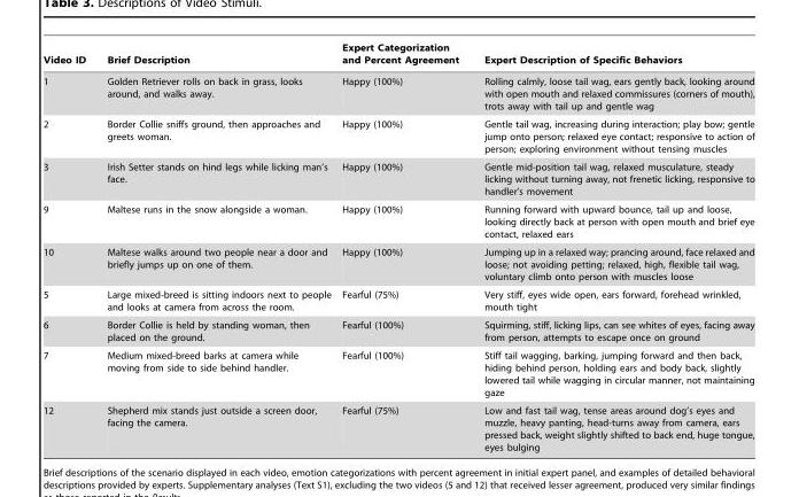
<table><thead><tr><td>Video ID</td><td>Brief Description</td><td>Expert Categorization and Percent Agreement</td><td>Expert Description of Specific Behaviors</td></tr></thead><tbody><tr><td>1</td><td>Golden Retriever rolls on back in grass, looks around, and walks away.</td><td>Happy (100%)</td><td>Rolling calmly, loose tail wag, ears gently back, looking around with open mouth and relaxed commissures (corners of mouth), trots away with tail up and gentle wag</td></tr><tr><td>2</td><td>Border Collie sniffs ground, then approaches and greets woman.</td><td>Happy (100%)</td><td>Gentle tail wag, increasing during interaction; play bow; gentle jump onto person; relaxed eye contact; responsive to action of person; exploring environment without tensing muscles</td></tr><tr><td>3</td><td>Irish Setter stands on hind legs while licking man’s face.</td><td>Happy (100%)</td><td>Gentle mid-position tail wag, relaxed musculature, steady licking without turning away, not frenetic licking, responsive to handler’s movement</td></tr><tr><td>9</td><td>Maltese runs in the snow alongside a woman.</td><td>Happy (100%)</td><td>Running forward with upward bounce, tail up and loose, looking directly back at person with open mouth and brief eye contact, relaxed ears</td></tr><tr><td>10</td><td>Maltese walks around two people near a door and briefly jumps up on one of them.</td><td>Happy (100%)</td><td>Jumping up in a relaxed way; prancing around, face relaxed and loose; not avoiding petting; relaxed, high, flexible tail wag, voluntary climb onto person with muscles loose</td></tr><tr><td>5</td><td>Large mixed-breed is sitting indoors next to people and looks at camera from across the room.</td><td>Fearful (75%)</td><td>Very stiff, eyes wide open, ears forward, forehead wrinkled, mouth tight</td></tr><tr><td>6</td><td>Border Collie is held by standing woman, then placed on the ground.</td><td>Fearful (100%)</td><td>Squirming, stiff, licking lips, can see whites of eyes, facing away from person, attempts to escape once on ground</td></tr><tr><td>7</td><td>Medium mixed-breed barks at camera while moving from side to side behind handler.</td><td>Fearful (100%)</td><td>Stiff tail wagging, barking, jumping forward and then back, hiding behind person, holding ears and body back, slightly lowered tail while wagging in circular manner, not maintaining gaze</td></tr><tr><td>12</td><td>Shepherd mix stands just outside a screen door, facing the camera.</td><td>Fearful (75%)</td><td>Low and fast tail wag, tense areas around dog’s eyes and muzzle, heavy panting, head-turns away from camera, ears pressed back, weight slightly shifted to back end, huge tongue, eyes bulging</td></tr></tbody></table>